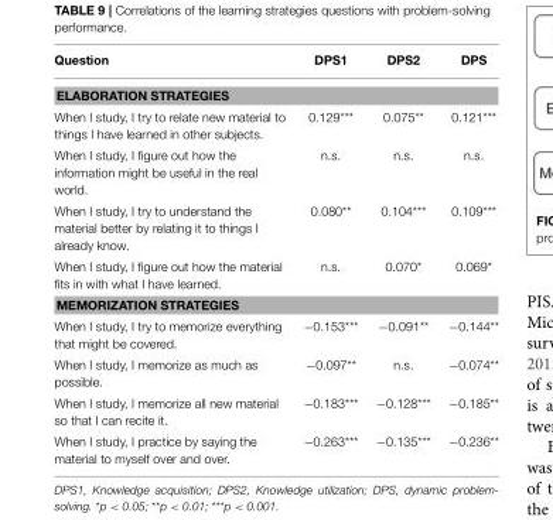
<table><thead><tr><td>Question</td><td>DPS1</td><td>DPS2</td><td>DPS</td></tr></thead><tbody><tr><td colspan="4">ELABORATION STRATEGIES</td></tr><tr><td>When I study, I try to relate new material to things I have learned in other subjects.</td><td>0.129***</td><td>0.075**</td><td>0.121***</td></tr><tr><td>When I study, I figure out how the information might be useful in the real world.</td><td>n.s.</td><td>n.s.</td><td>n.s.</td></tr><tr><td>When I study, I try to understand the material better by relating it to things I already know.</td><td>0.080**</td><td>0.104***</td><td>0.109***</td></tr><tr><td>When I study, I figure out how the material fits in with what I have learned.</td><td>n.s.</td><td>0.070*</td><td>0.069*</td></tr><tr><td colspan="4">MEMORIZATION STRATEGIES</td></tr><tr><td>When I study, I try to memorize everything that might be covered.</td><td>−0.153***</td><td>−0.091**</td><td>−0.144**</td></tr><tr><td>When I study, I memorize as much as possible.</td><td>−0.097**</td><td>n.s.</td><td>−0.074**</td></tr><tr><td>When I study, I memorize all new material so that I can recite it.</td><td>−0.183***</td><td>−0.128***</td><td>−0.185**</td></tr><tr><td>When I study, I practice by saying the material to myself over and over.</td><td>−0.263***</td><td>−0.135***</td><td>−0.236**</td></tr></tbody></table>